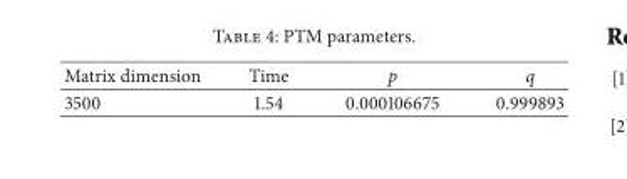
<table><thead><tr><td>Matrix dimension</td><td>Time</td><td>p</td><td>q</td></tr></thead><tbody><tr><td>3500</td><td>1.54</td><td>0.000106675</td><td>0.999893</td></tr></tbody></table>